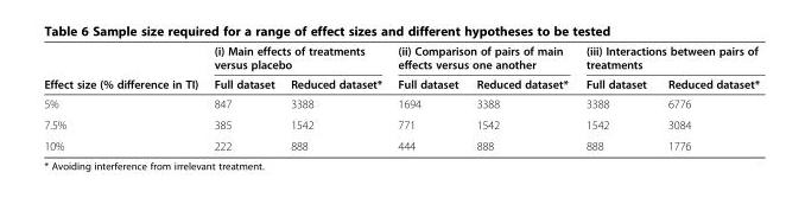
<table><thead><tr><td rowspan="2">Effect size (% difference in TI)</td><td colspan="2">(i) Main effects of treatments versus placebo</td><td colspan="2">(ii) Comparison of pairs of main effects versus one another</td><td colspan="2">(iii) Interactions between pairs of treatments</td></tr><tr><td>Full dataset</td><td>Reduced dataset*</td><td>Full dataset</td><td>Reduced dataset*</td><td>Full dataset</td><td>Reduced dataset*</td></tr></thead><tbody><tr><td>5%</td><td>847</td><td>3388</td><td>1694</td><td>3388</td><td>3388</td><td>6776</td></tr><tr><td>7.5%</td><td>385</td><td>1542</td><td>771</td><td>1542</td><td>1542</td><td>3084</td></tr><tr><td>10%</td><td>222</td><td>888</td><td>444</td><td>888</td><td>888</td><td>1776</td></tr></tbody></table>